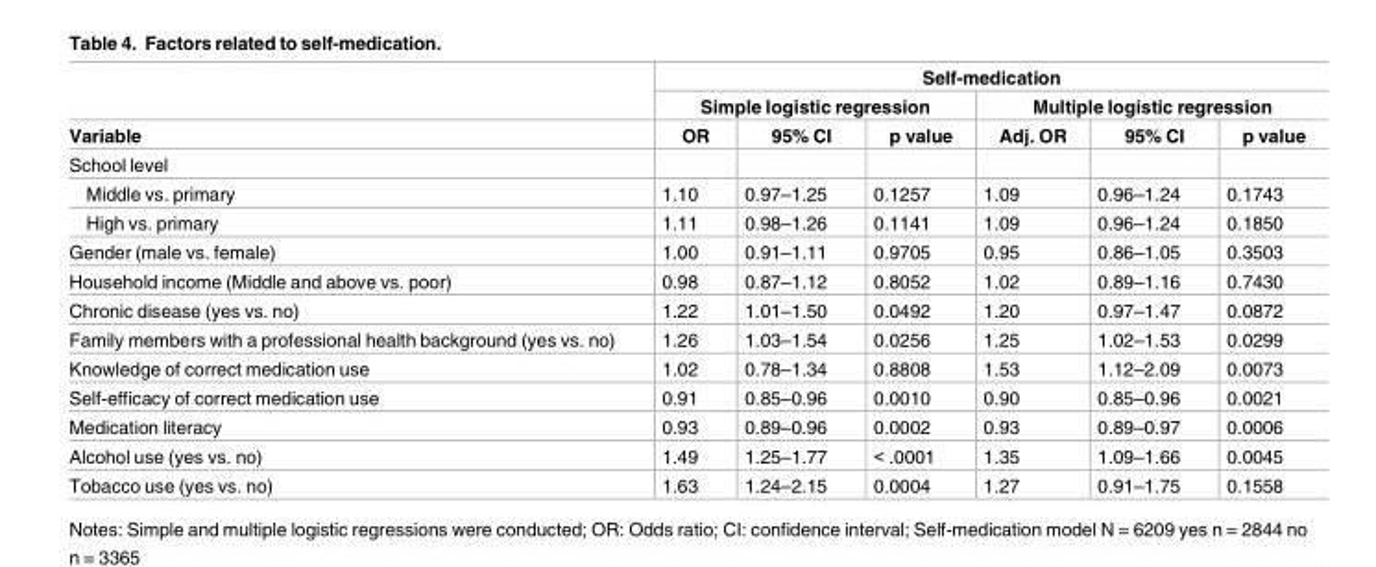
<table><thead><tr><td rowspan="3">Variable</td><td colspan="6">Self-medication</td></tr><tr><td colspan="3">Simple logistic regression</td><td colspan="3">Multiple logistic regression</td></tr><tr><td>OR</td><td>95% CI</td><td>p value</td><td>Adj. OR</td><td>95% CI</td><td>p value</td></tr></thead><tbody><tr><td colspan="7">School level</td></tr><tr><td>Middle vs. primary</td><td>1.10</td><td>0.97–1.25</td><td>0.1257</td><td>1.09</td><td>0.96–1.24</td><td>0.1743</td></tr><tr><td>High vs. primary</td><td>1.11</td><td>0.98–1.26</td><td>0.1141</td><td>1.09</td><td>0.96–1.24</td><td>0.1850</td></tr><tr><td>Gender (male vs. female)</td><td>1.00</td><td>0.91–1.11</td><td>0.9705</td><td>0.95</td><td>0.86–1.05</td><td>0.3503</td></tr><tr><td>Household income (Middle and above vs. poor)</td><td>0.98</td><td>0.87–1.12</td><td>0.8052</td><td>1.02</td><td>0.89–1.16</td><td>0.7430</td></tr><tr><td>Chronic disease (yes vs. no)</td><td>1.22</td><td>1.01–1.50</td><td>0.0492</td><td>1.20</td><td>0.97–1.47</td><td>0.0872</td></tr><tr><td>Family members with a professional health background (yes vs. no)</td><td>1.26</td><td>1.03–1.54</td><td>0.0256</td><td>1.25</td><td>1.02–1.53</td><td>0.0299</td></tr><tr><td>Knowledge of correct medication use</td><td>1.02</td><td>0.78–1.34</td><td>0.8808</td><td>1.53</td><td>1.12–2.09</td><td>0.0073</td></tr><tr><td>Self-efficacy of correct medication use</td><td>0.91</td><td>0.85–0.96</td><td>0.0010</td><td>0.90</td><td>0.85–0.96</td><td>0.0021</td></tr><tr><td>Medication literacy</td><td>0.93</td><td>0.89–0.96</td><td>0.0002</td><td>0.93</td><td>0.89–0.97</td><td>0.0006</td></tr><tr><td>Alcohol use (yes vs. no)</td><td>1.49</td><td>1.25–1.77</td><td>&lt; .0001</td><td>1.35</td><td>1.09–1.66</td><td>0.0045</td></tr><tr><td>Tobacco use (yes vs. no)</td><td>1.63</td><td>1.24–2.15</td><td>0.0004</td><td>1.27</td><td>0.91–1.75</td><td>0.1558</td></tr></tbody></table>